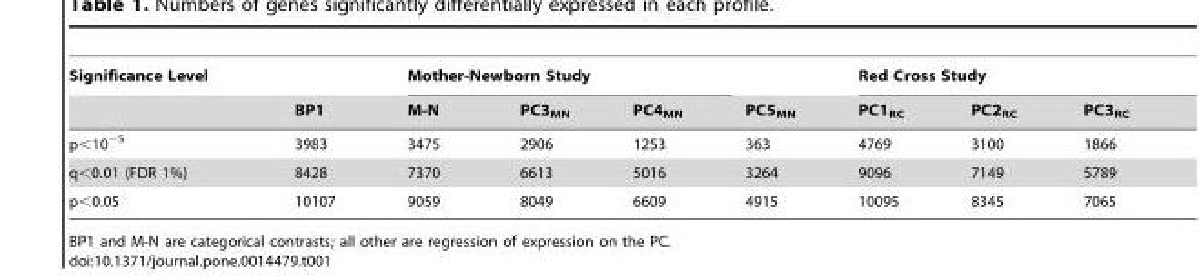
<table><thead><tr><td rowspan="2">Significance Level</td><td rowspan="2">BP1</td><td colspan="3">Mother-Newborn Study</td><td rowspan="2">PC5<sub>MN</sub></td><td colspan="3">Red Cross Study</td></tr><tr><td>M-N</td><td>PC3<sub>MN</sub></td><td>PC4<sub>MN</sub></td><td>PC1<sub>RC</sub></td><td>PC2<sub>RC</sub></td><td>PC3<sub>RC</sub></td></tr></thead><tbody><tr><td>p&lt;10<sup>−5</sup></td><td>3983</td><td>3475</td><td>2906</td><td>1253</td><td>363</td><td>4769</td><td>3100</td><td>1866</td></tr><tr><td>q&lt;0.01 (FDR 1%)</td><td>8428</td><td>7370</td><td>6613</td><td>5016</td><td>3264</td><td>9096</td><td>7149</td><td>5789</td></tr><tr><td>p&lt;0.05</td><td>10107</td><td>9059</td><td>8049</td><td>6609</td><td>4915</td><td>10095</td><td>8345</td><td>7065</td></tr></tbody></table>